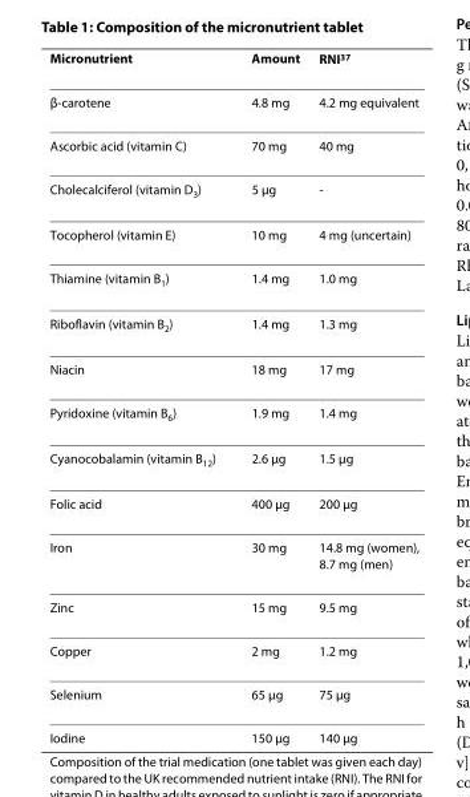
<table><thead><tr><td>Micronutrient</td><td>Amount</td><td>RNI<sup>37</sup></td></tr></thead><tbody><tr><td>β-carotene</td><td>4.8 mg</td><td>4.2 mg equivalent</td></tr><tr><td>Ascorbic acid (vitamin C)</td><td>70 mg</td><td>40 mg</td></tr><tr><td>Cholecalciferol (vitamin D<sub>3</sub>)</td><td>5 μg</td><td>-</td></tr><tr><td>Tocopherol (vitamin E)</td><td>10 mg</td><td>4 mg (uncertain)</td></tr><tr><td>Thiamine (vitamin B<sub>1</sub>)</td><td>1.4 mg</td><td>1.0 mg</td></tr><tr><td>Riboflavin (vitamin B<sub>2</sub>)</td><td>1.4 mg</td><td>1.3 mg</td></tr><tr><td>Niacin</td><td>18 mg</td><td>17 mg</td></tr><tr><td>Pyridoxine (vitamin B<sub>6</sub>)</td><td>1.9 mg</td><td>1.4 mg</td></tr><tr><td>Cyanocobalamin (vitamin B<sub>12</sub>)</td><td>2.6 μg</td><td>1.5 μg</td></tr><tr><td>Folic acid</td><td>400 μg</td><td>200 μg</td></tr><tr><td>Iron</td><td>30 mg</td><td>14.8 mg (women), 8.7 mg (men)</td></tr><tr><td>Zinc</td><td>15 mg</td><td>9.5 mg</td></tr><tr><td>Copper</td><td>2 mg</td><td>1.2 mg</td></tr><tr><td>Selenium</td><td>65 μg</td><td>75 μg</td></tr><tr><td>Iodine</td><td>150 μg</td><td>140 μg</td></tr></tbody></table>